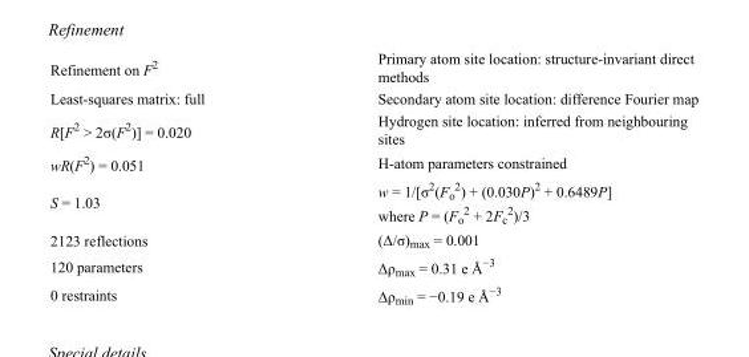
<table><tbody><tr><td>Refinement on F<sup>2</sup></td><td>Primary atom site location: structure-invariant direct methods</td></tr><tr><td>Least-squares matrix: full</td><td>Secondary atom site location: difference Fourier map</td></tr><tr><td>R[F<sup>2</sup> &gt; 2σ(F<sup>2</sup>)] = 0.020</td><td>Hydrogen site location: inferred from neighbouring sites</td></tr><tr><td>wR(F<sup>2</sup>) = 0.051</td><td>H-atom parameters constrained</td></tr><tr><td>S = 1.03</td><td>w = 1/[σ<sup>2</sup>(F<sub>o</sub> <sup>2</sup>) + (0.030P)<sup>2</sup> + 0.6489P] where P = (F<sub>o</sub> <sup>2</sup> + 2F<sub>c</sub> <sup>2</sup>)/3</td></tr><tr><td>2123 reflections</td><td>(Δ/σ)<sub>max</sub> = 0.001</td></tr><tr><td>120 parameters</td><td>Δρ<sub>max</sub> = 0.31 e Å<sup>−3</sup></td></tr><tr><td>0 restraints</td><td>Δρ<sub>min</sub> = −0.19 e Å<sup>−3</sup></td></tr></tbody></table>